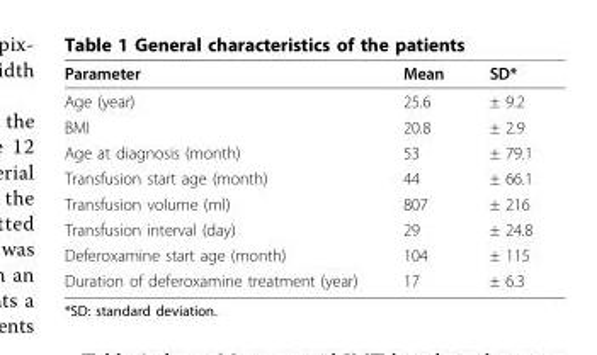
<table><thead><tr><td>Parameter</td><td>Mean</td><td>SD*</td></tr></thead><tbody><tr><td>Age (year)</td><td>25.6</td><td>± 9.2</td></tr><tr><td>BMI</td><td>20.8</td><td>± 2.9</td></tr><tr><td>Age at diagnosis (month)</td><td>53</td><td>± 79.1</td></tr><tr><td>Transfusion start age (month)</td><td>44</td><td>± 66.1</td></tr><tr><td>Transfusion volume (ml)</td><td>807</td><td>± 216</td></tr><tr><td>Transfusion interval (day)</td><td>29</td><td>± 24.8</td></tr><tr><td>Deferoxamine start age (month)</td><td>104</td><td>± 115</td></tr><tr><td>Duration of deferoxamine treatment (year)</td><td>17</td><td>± 6.3</td></tr></tbody></table>